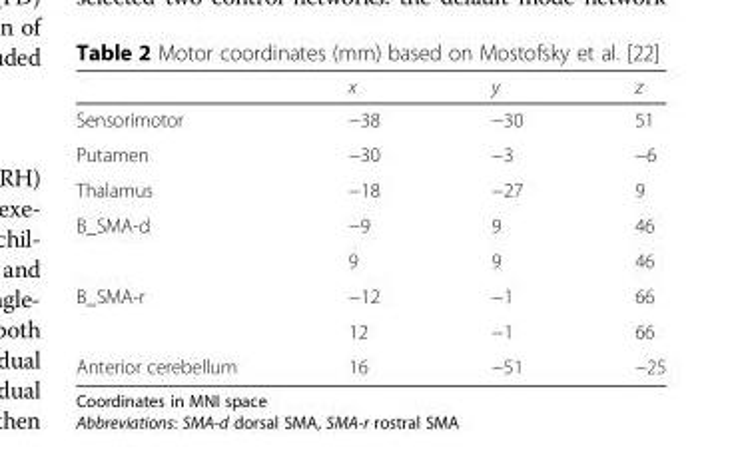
<table><thead><tr><td></td><td>x</td><td>y</td><td>z</td></tr></thead><tbody><tr><td>Sensorimotor</td><td>−38</td><td>−30</td><td>51</td></tr><tr><td>Putamen</td><td>−30</td><td>−3</td><td>−6</td></tr><tr><td>Thalamus</td><td>−18</td><td>−27</td><td>9</td></tr><tr><td rowspan="2">B_SMA-d</td><td>−9</td><td>9</td><td>46</td></tr><tr><td>9</td><td>9</td><td>46</td></tr><tr><td rowspan="2">B_SMA-r</td><td>−12</td><td>−1</td><td>66</td></tr><tr><td>12</td><td>−1</td><td>66</td></tr><tr><td>Anterior cerebellum</td><td>16</td><td>−51</td><td>−25</td></tr></tbody></table>